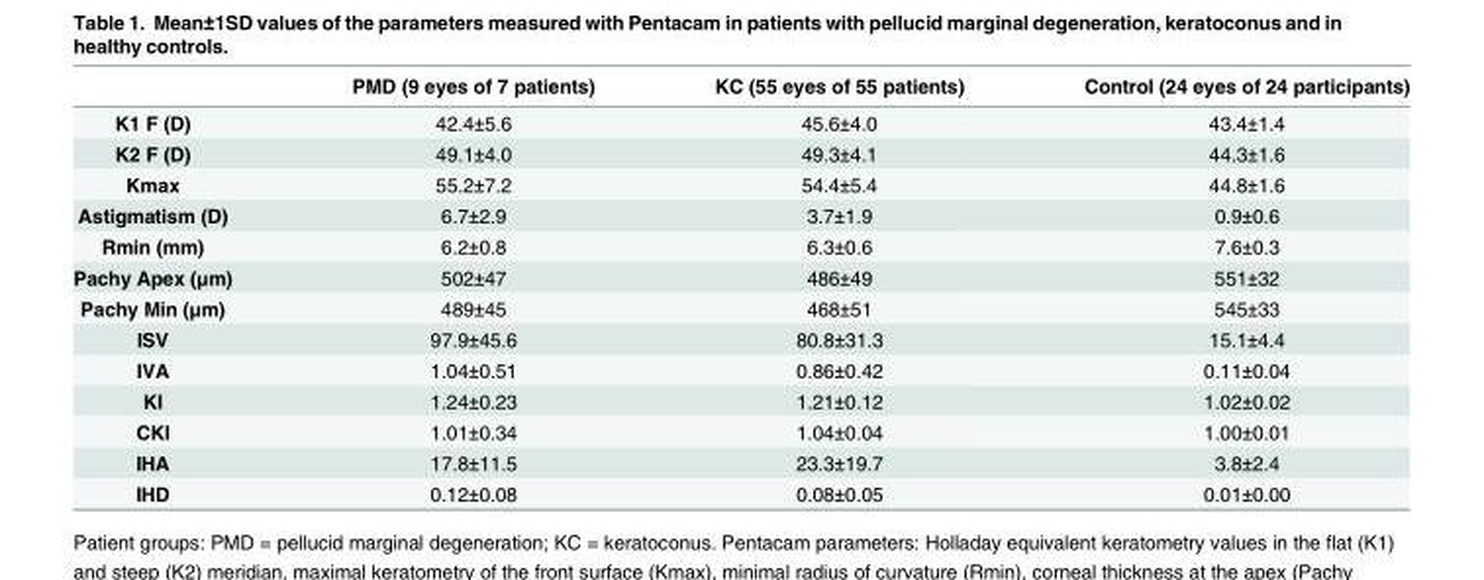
<table><thead><tr><td></td><td>PMD (9 eyes of 7 patients)</td><td>KC (55 eyes of 55 patients)</td><td>Control (24 eyes of 24 participants)</td></tr></thead><tbody><tr><td>K1 F (D)</td><td>42.4±5.6</td><td>45.6±4.0</td><td>43.4±1.4</td></tr><tr><td>K2 F (D)</td><td>49.1±4.0</td><td>49.3±4.1</td><td>44.3±1.6</td></tr><tr><td>Kmax</td><td>55.2±7.2</td><td>54.4±5.4</td><td>44.8±1.6</td></tr><tr><td>Astigmatism (D)</td><td>6.7±2.9</td><td>3.7±1.9</td><td>0.9±0.6</td></tr><tr><td>Rmin (mm)</td><td>6.2±0.8</td><td>6.3±0.6</td><td>7.6±0.3</td></tr><tr><td>Pachy Apex (μm)</td><td>502±47</td><td>486±49</td><td>551±32</td></tr><tr><td>Pachy Min (μm)</td><td>489±45</td><td>468±51</td><td>545±33</td></tr><tr><td>ISV</td><td>97.9±45.6</td><td>80.8±31.3</td><td>15.1±4.4</td></tr><tr><td>IVA</td><td>1.04±0.51</td><td>0.86±0.42</td><td>0.11±0.04</td></tr><tr><td>KI</td><td>1.24±0.23</td><td>1.21±0.12</td><td>1.02±0.02</td></tr><tr><td>CKI</td><td>1.01±0.34</td><td>1.04±0.04</td><td>1.00±0.01</td></tr><tr><td>IHA</td><td>17.8±11.5</td><td>23.3±19.7</td><td>3.8±2.4</td></tr><tr><td>IHD</td><td>0.12±0.08</td><td>0.08±0.05</td><td>0.01±0.00</td></tr></tbody></table>